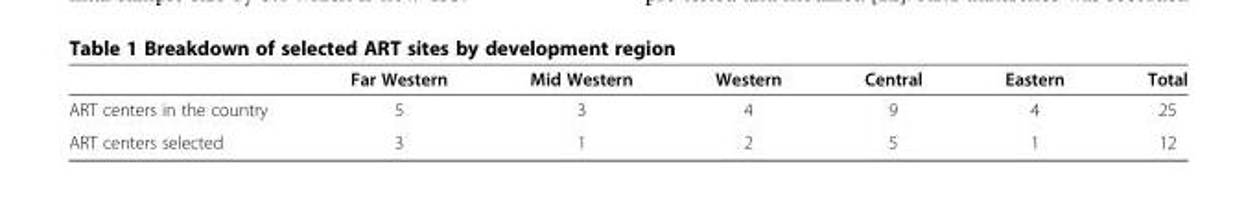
<table><thead><tr><td></td><td>Far Western</td><td>Mid Western</td><td>Western</td><td>Central</td><td>Eastern</td><td>Total</td></tr></thead><tbody><tr><td>ART centers in the country</td><td>5</td><td>3</td><td>4</td><td>9</td><td>4</td><td>25</td></tr><tr><td>ART centers selected</td><td>3</td><td>1</td><td>2</td><td>5</td><td>1</td><td>12</td></tr></tbody></table>